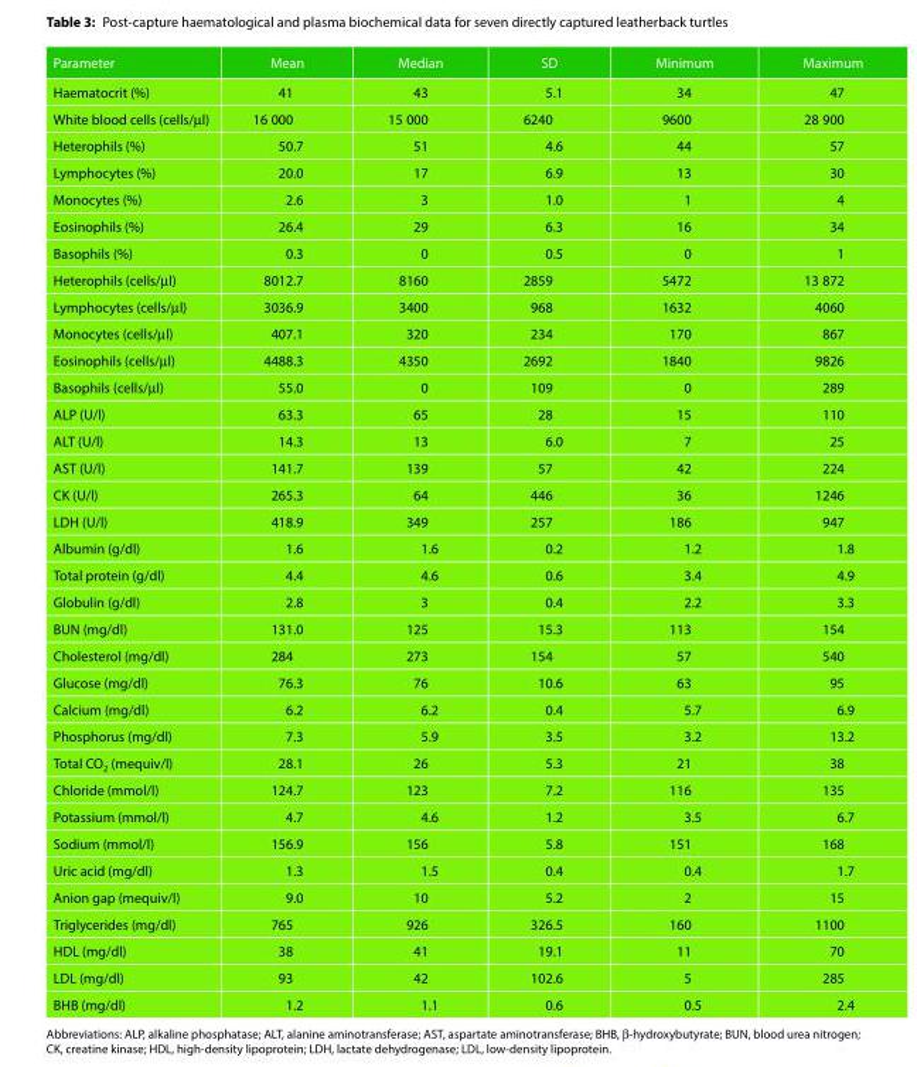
<table><thead><tr><td>Parameter</td><td>Mean</td><td>Median</td><td>SD</td><td>Minimum</td><td>Maximum</td></tr></thead><tbody><tr><td>Haematocrit (%)</td><td>41</td><td>43</td><td>5.1</td><td>34</td><td>47</td></tr><tr><td>White blood cells (cells/µl)</td><td>16 000</td><td>15 000</td><td>6240</td><td>9600</td><td>28 900</td></tr><tr><td>Heterophils (%)</td><td>50.7</td><td>51</td><td>4.6</td><td>44</td><td>57</td></tr><tr><td>Lymphocytes (%)</td><td>20.0</td><td>17</td><td>6.9</td><td>13</td><td>30</td></tr><tr><td>Monocytes (%)</td><td>2.6</td><td>3</td><td>1.0</td><td>1</td><td>4</td></tr><tr><td>Eosinophils (%)</td><td>26.4</td><td>29</td><td>6.3</td><td>16</td><td>34</td></tr><tr><td>Basophils (%)</td><td>0.3</td><td>0</td><td>0.5</td><td>0</td><td>1</td></tr><tr><td>Heterophils (cells/µl)</td><td>8012.7</td><td>8160</td><td>2859</td><td>5472</td><td>13 872</td></tr><tr><td>Lymphocytes (cells/µl)</td><td>3036.9</td><td>3400</td><td>968</td><td>1632</td><td>4060</td></tr><tr><td>Monocytes (cells/µl)</td><td>407.1</td><td>320</td><td>234</td><td>170</td><td>867</td></tr><tr><td>Eosinophils (cells/µl)</td><td>4488.3</td><td>4350</td><td>2692</td><td>1840</td><td>9826</td></tr><tr><td>Basophils (cells/µl)</td><td>55.0</td><td>0</td><td>109</td><td>0</td><td>289</td></tr><tr><td>ALP (U/l)</td><td>63.3</td><td>65</td><td>28</td><td>15</td><td>110</td></tr><tr><td>ALT (U/l)</td><td>14.3</td><td>13</td><td>6.0</td><td>7</td><td>25</td></tr><tr><td>AST (U/l)</td><td>141.7</td><td>139</td><td>57</td><td>42</td><td>224</td></tr><tr><td>CK (U/l)</td><td>265.3</td><td>64</td><td>446</td><td>36</td><td>1246</td></tr><tr><td>LDH (U/l)</td><td>418.9</td><td>349</td><td>257</td><td>186</td><td>947</td></tr><tr><td>Albumin (g/dl)</td><td>1.6</td><td>1.6</td><td>0.2</td><td>1.2</td><td>1.8</td></tr><tr><td>Total protein (g/dl)</td><td>4.4</td><td>4.6</td><td>0.6</td><td>3.4</td><td>4.9</td></tr><tr><td>Globulin (g/dl)</td><td>2.8</td><td>3</td><td>0.4</td><td>2.2</td><td>3.3</td></tr><tr><td>BUN (mg/dl)</td><td>131.0</td><td>125</td><td>15.3</td><td>113</td><td>154</td></tr><tr><td>Cholesterol (mg/dl)</td><td>284</td><td>273</td><td>154</td><td>57</td><td>540</td></tr><tr><td>Glucose (mg/dl)</td><td>76.3</td><td>76</td><td>10.6</td><td>63</td><td>95</td></tr><tr><td>Calcium (mg/dl)</td><td>6.2</td><td>6.2</td><td>0.4</td><td>5.7</td><td>6.9</td></tr><tr><td>Phosphorus (mg/dl)</td><td>7.3</td><td>5.9</td><td>3.5</td><td>3.2</td><td>13.2</td></tr><tr><td>Total CO<sub>2</sub> (mequiv/l)</td><td>28.1</td><td>26</td><td>5.3</td><td>21</td><td>38</td></tr><tr><td>Chloride (mmol/l)</td><td>124.7</td><td>123</td><td>7.2</td><td>116</td><td>135</td></tr><tr><td>Potassium (mmol/l)</td><td>4.7</td><td>4.6</td><td>1.2</td><td>3.5</td><td>6.7</td></tr><tr><td>Sodium (mmol/l)</td><td>156.9</td><td>156</td><td>5.8</td><td>151</td><td>168</td></tr><tr><td>Uric acid (mg/dl)</td><td>1.3</td><td>1.5</td><td>0.4</td><td>0.4</td><td>1.7</td></tr><tr><td>Anion gap (mequiv/l)</td><td>9.0</td><td>10</td><td>5.2</td><td>2</td><td>15</td></tr><tr><td>Triglycerides (mg/dl)</td><td>765</td><td>926</td><td>326.5</td><td>160</td><td>1100</td></tr><tr><td>HDL (mg/dl)</td><td>38</td><td>41</td><td>19.1</td><td>11</td><td>70</td></tr><tr><td>LDL (mg/dl)</td><td>93</td><td>42</td><td>102.6</td><td>5</td><td>285</td></tr><tr><td>BHB (mg/dl)</td><td>1.2</td><td>1.1</td><td>0.6</td><td>0.5</td><td>2.4</td></tr></tbody></table>